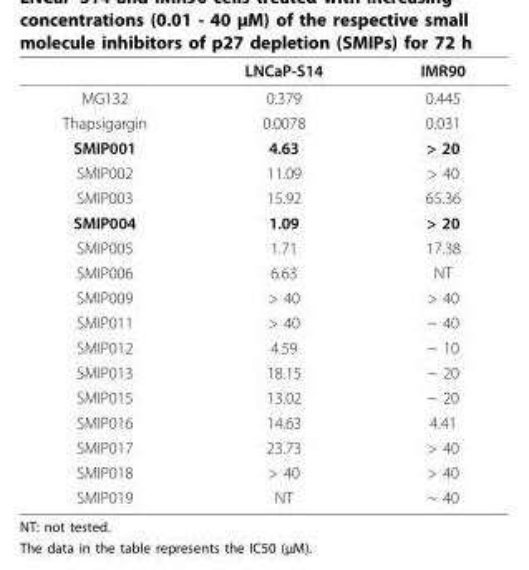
<table><thead><tr><td></td><td>LNCaP-S14</td><td>IMR90</td></tr></thead><tbody><tr><td>MG132</td><td>0.379</td><td>0.445</td></tr><tr><td>Thapsigargin</td><td>0.0078</td><td>0.031</td></tr><tr><td>SMIP001</td><td>4.63</td><td>&gt; 20</td></tr><tr><td>SMIP002</td><td>11.09</td><td>&gt; 40</td></tr><tr><td>SMIP003</td><td>15.92</td><td>65.36</td></tr><tr><td>SMIP004</td><td>1.09</td><td>&gt; 20</td></tr><tr><td>SMIP005</td><td>1.71</td><td>17.38</td></tr><tr><td>SMIP006</td><td>6.63</td><td>NT</td></tr><tr><td>SMIP009</td><td>&gt; 40</td><td>&gt; 40</td></tr><tr><td>SMIP011</td><td>&gt; 40</td><td>~ 40</td></tr><tr><td>SMIP012</td><td>4.59</td><td>~ 10</td></tr><tr><td>SMIP013</td><td>18.15</td><td>~ 20</td></tr><tr><td>SMIP015</td><td>13.02</td><td>~ 20</td></tr><tr><td>SMIP016</td><td>14.63</td><td>4.41</td></tr><tr><td>SMIP017</td><td>23.73</td><td>&gt; 40</td></tr><tr><td>SMIP018</td><td>&gt; 40</td><td>&gt; 40</td></tr><tr><td>SMIP019</td><td>NT</td><td>~ 40</td></tr></tbody></table>